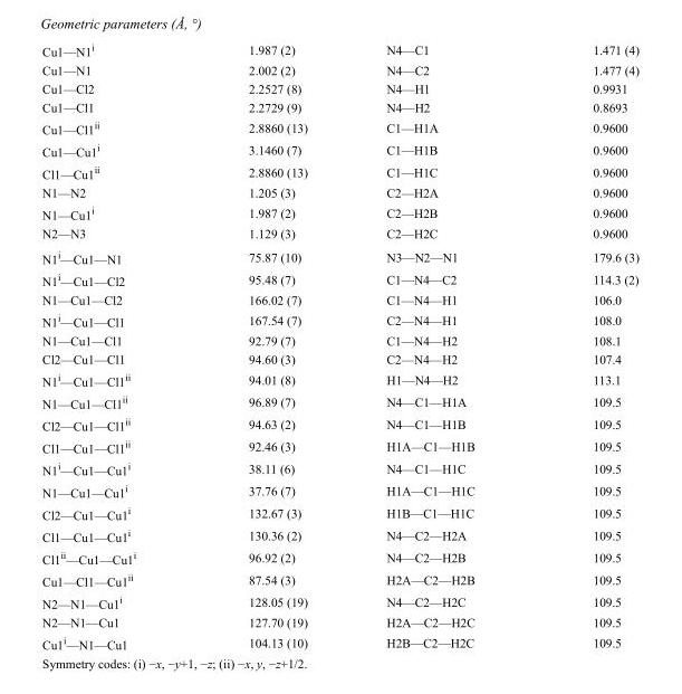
<table><tbody><tr><td>Cu1—N1<sup>i</sup></td><td>1.987 (2)</td><td>N4—C1</td><td>1.471 (4)</td></tr><tr><td>Cu1—N1</td><td>2.002 (2)</td><td>N4—C2</td><td>1.477 (4)</td></tr><tr><td>Cu1—Cl2</td><td>2.2527 (8)</td><td>N4—H1</td><td>0.9931</td></tr><tr><td>Cu1—Cl1</td><td>2.2729 (9)</td><td>N4—H2</td><td>0.8693</td></tr><tr><td>Cu1—Cl1<sup>ii</sup></td><td>2.8860 (13)</td><td>C1—H1A</td><td>0.9600</td></tr><tr><td>Cu1—Cu1<sup>i</sup></td><td>3.1460 (7)</td><td>C1—H1B</td><td>0.9600</td></tr><tr><td>Cl1—Cu1<sup>ii</sup></td><td>2.8860 (13)</td><td>C1—H1C</td><td>0.9600</td></tr><tr><td>N1—N2</td><td>1.205 (3)</td><td>C2—H2A</td><td>0.9600</td></tr><tr><td>N1—Cu1<sup>i</sup></td><td>1.987 (2)</td><td>C2—H2B</td><td>0.9600</td></tr><tr><td>N2—N3</td><td>1.129 (3)</td><td>C2—H2C</td><td>0.9600</td></tr><tr><td>N1<sup>i</sup>—Cu1—N1</td><td>75.87 (10)</td><td>N3—N2—N1</td><td>179.6 (3)</td></tr><tr><td>N1<sup>i</sup>—Cu1—Cl2</td><td>95.48 (7)</td><td>C1—N4—C2</td><td>114.3 (2)</td></tr><tr><td>N1—Cu1—Cl2</td><td>166.02 (7)</td><td>C1—N4—H1</td><td>106.0</td></tr><tr><td>N1<sup>i</sup>—Cu1—Cl1</td><td>167.54 (7)</td><td>C2—N4—H1</td><td>108.0</td></tr><tr><td>N1—Cu1—Cl1</td><td>92.79 (7)</td><td>C1—N4—H2</td><td>108.1</td></tr><tr><td>Cl2—Cu1—Cl1</td><td>94.60 (3)</td><td>C2—N4—H2</td><td>107.4</td></tr><tr><td>N1<sup>i</sup>—Cu1—Cl1<sup>ii</sup></td><td>94.01 (8)</td><td>H1—N4—H2</td><td>113.1</td></tr><tr><td>N1—Cu1—Cl1<sup>ii</sup></td><td>96.89 (7)</td><td>N4—C1—H1A</td><td>109.5</td></tr><tr><td>Cl2—Cu1—Cl1<sup>ii</sup></td><td>94.63 (2)</td><td>N4—C1—H1B</td><td>109.5</td></tr><tr><td>Cl1—Cu1—Cl1<sup>ii</sup></td><td>92.46 (3)</td><td>H1A—C1—H1B</td><td>109.5</td></tr><tr><td>N1<sup>i</sup>—Cu1—Cu1<sup>i</sup></td><td>38.11 (6)</td><td>N4—C1—H1C</td><td>109.5</td></tr><tr><td>N1—Cu1—Cu1<sup>i</sup></td><td>37.76 (7)</td><td>H1A—C1—H1C</td><td>109.5</td></tr><tr><td>Cl2—Cu1—Cu1<sup>i</sup></td><td>132.67 (3)</td><td>H1B—C1—H1C</td><td>109.5</td></tr><tr><td>Cl1—Cu1—Cu1<sup>i</sup></td><td>130.36 (2)</td><td>N4—C2—H2A</td><td>109.5</td></tr><tr><td>Cl1<sup>ii</sup>—Cu1—Cu1<sup>i</sup></td><td>96.92 (2)</td><td>N4—C2—H2B</td><td>109.5</td></tr><tr><td>Cu1—Cl1—Cu1<sup>ii</sup></td><td>87.54 (3)</td><td>H2A—C2—H2B</td><td>109.5</td></tr><tr><td>N2—N1—Cu1<sup>i</sup></td><td>128.05 (19)</td><td>N4—C2—H2C</td><td>109.5</td></tr><tr><td>N2—N1—Cu1</td><td>127.70 (19)</td><td>H2A—C2—H2C</td><td>109.5</td></tr><tr><td>Cu1<sup>i</sup>—N1—Cu1</td><td>104.13 (10)</td><td>H2B—C2—H2C</td><td>109.5</td></tr></tbody></table>